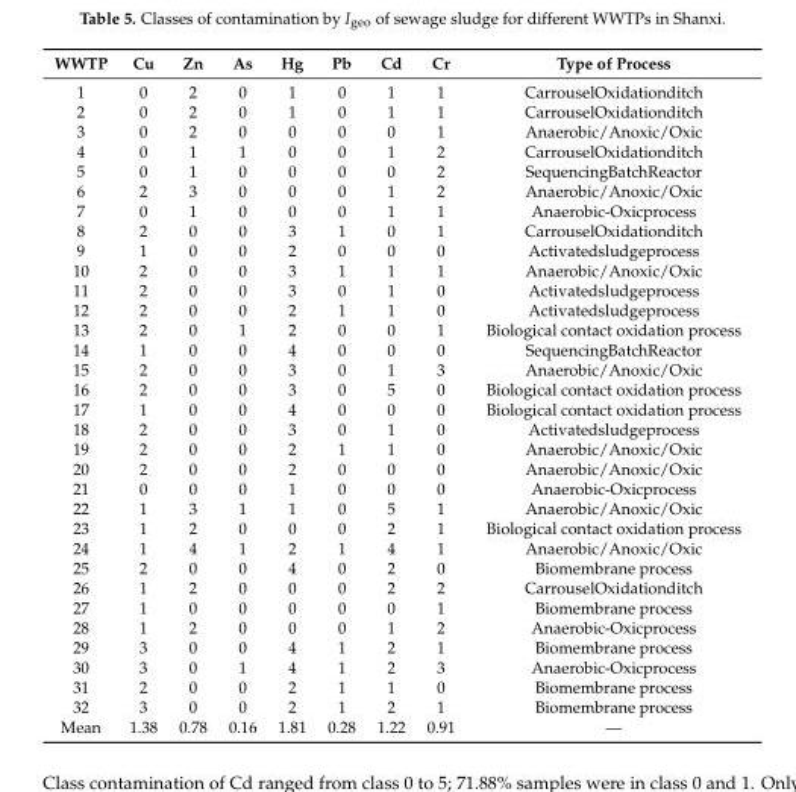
<table><thead><tr><td>WWTP</td><td>Cu</td><td>Zn</td><td>As</td><td>Hg</td><td>Pb</td><td>Cd</td><td>Cr</td><td>Type of Process</td></tr></thead><tbody><tr><td>1</td><td>0</td><td>2</td><td>0</td><td>1</td><td>0</td><td>1</td><td>1</td><td>CarrouselOxidationditch</td></tr><tr><td>2</td><td>0</td><td>2</td><td>0</td><td>1</td><td>0</td><td>1</td><td>1</td><td>CarrouselOxidationditch</td></tr><tr><td>3</td><td>0</td><td>2</td><td>0</td><td>0</td><td>0</td><td>0</td><td>1</td><td>Anaerobic/Anoxic/Oxic</td></tr><tr><td>4</td><td>0</td><td>1</td><td>1</td><td>0</td><td>0</td><td>1</td><td>2</td><td>CarrouselOxidationditch</td></tr><tr><td>5</td><td>0</td><td>1</td><td>0</td><td>0</td><td>0</td><td>0</td><td>2</td><td>SequencingBatchReactor</td></tr><tr><td>6</td><td>2</td><td>3</td><td>0</td><td>0</td><td>0</td><td>1</td><td>2</td><td>Anaerobic/Anoxic/Oxic</td></tr><tr><td>7</td><td>0</td><td>1</td><td>0</td><td>0</td><td>0</td><td>1</td><td>1</td><td>Anaerobic-Oxicprocess</td></tr><tr><td>8</td><td>2</td><td>0</td><td>0</td><td>3</td><td>1</td><td>0</td><td>1</td><td>CarrouselOxidationditch</td></tr><tr><td>9</td><td>1</td><td>0</td><td>0</td><td>2</td><td>0</td><td>0</td><td>0</td><td>Activatedsludgeprocess</td></tr><tr><td>10</td><td>2</td><td>0</td><td>0</td><td>3</td><td>1</td><td>1</td><td>1</td><td>Anaerobic/Anoxic/Oxic</td></tr><tr><td>11</td><td>2</td><td>0</td><td>0</td><td>3</td><td>0</td><td>1</td><td>0</td><td>Activatedsludgeprocess</td></tr><tr><td>12</td><td>2</td><td>0</td><td>0</td><td>2</td><td>1</td><td>1</td><td>0</td><td>Activatedsludgeprocess</td></tr><tr><td>13</td><td>2</td><td>0</td><td>1</td><td>2</td><td>0</td><td>0</td><td>1</td><td>Biological contact oxidation process</td></tr><tr><td>14</td><td>1</td><td>0</td><td>0</td><td>4</td><td>0</td><td>0</td><td>0</td><td>SequencingBatchReactor</td></tr><tr><td>15</td><td>2</td><td>0</td><td>0</td><td>3</td><td>0</td><td>1</td><td>3</td><td>Anaerobic/Anoxic/Oxic</td></tr><tr><td>16</td><td>2</td><td>0</td><td>0</td><td>3</td><td>0</td><td>5</td><td>0</td><td>Biological contact oxidation process</td></tr><tr><td>17</td><td>1</td><td>0</td><td>0</td><td>4</td><td>0</td><td>0</td><td>0</td><td>Biological contact oxidation process</td></tr><tr><td>18</td><td>2</td><td>0</td><td>0</td><td>3</td><td>0</td><td>1</td><td>0</td><td>Activatedsludgeprocess</td></tr><tr><td>19</td><td>2</td><td>0</td><td>0</td><td>2</td><td>1</td><td>1</td><td>0</td><td>Anaerobic/Anoxic/Oxic</td></tr><tr><td>20</td><td>2</td><td>0</td><td>0</td><td>2</td><td>0</td><td>0</td><td>0</td><td>Anaerobic/Anoxic/Oxic</td></tr><tr><td>21</td><td>0</td><td>0</td><td>0</td><td>1</td><td>0</td><td>0</td><td>0</td><td>Anaerobic-Oxicprocess</td></tr><tr><td>22</td><td>1</td><td>3</td><td>1</td><td>1</td><td>0</td><td>5</td><td>1</td><td>Anaerobic/Anoxic/Oxic</td></tr><tr><td>23</td><td>1</td><td>2</td><td>0</td><td>0</td><td>0</td><td>2</td><td>1</td><td>Biological contact oxidation process</td></tr><tr><td>24</td><td>1</td><td>4</td><td>1</td><td>2</td><td>1</td><td>4</td><td>1</td><td>Anaerobic/Anoxic/Oxic</td></tr><tr><td>25</td><td>2</td><td>0</td><td>0</td><td>4</td><td>0</td><td>2</td><td>0</td><td>Biomembrane process</td></tr><tr><td>26</td><td>1</td><td>2</td><td>0</td><td>0</td><td>0</td><td>2</td><td>2</td><td>CarrouselOxidationditch</td></tr><tr><td>27</td><td>1</td><td>0</td><td>0</td><td>0</td><td>0</td><td>0</td><td>1</td><td>Biomembrane process</td></tr><tr><td>28</td><td>1</td><td>2</td><td>0</td><td>0</td><td>0</td><td>1</td><td>2</td><td>Anaerobic-Oxicprocess</td></tr><tr><td>29</td><td>3</td><td>0</td><td>0</td><td>4</td><td>1</td><td>2</td><td>1</td><td>Biomembrane process</td></tr><tr><td>30</td><td>3</td><td>0</td><td>1</td><td>4</td><td>1</td><td>2</td><td>3</td><td>Anaerobic-Oxicprocess</td></tr><tr><td>31</td><td>2</td><td>0</td><td>0</td><td>2</td><td>1</td><td>1</td><td>0</td><td>Biomembrane process</td></tr><tr><td>32</td><td>3</td><td>0</td><td>0</td><td>2</td><td>1</td><td>2</td><td>1</td><td>Biomembrane process</td></tr><tr><td>Mean</td><td>1.38</td><td>0.78</td><td>0.16</td><td>1.81</td><td>0.28</td><td>1.22</td><td>0.91</td><td>—</td></tr></tbody></table>